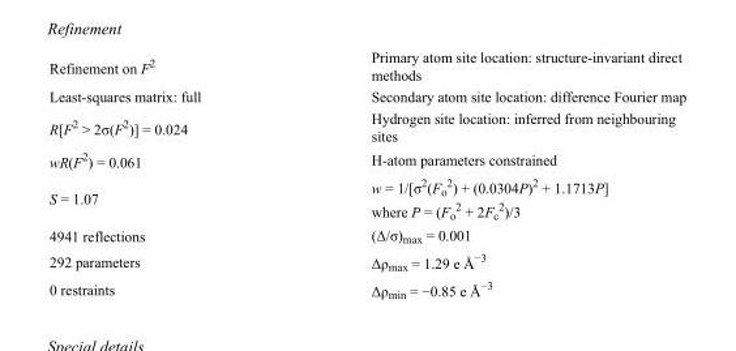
<table><tbody><tr><td>Refinement on F<sup>2</sup></td><td>Primary atom site location: structure-invariant direct methods</td></tr><tr><td>Least-squares matrix: full</td><td>Secondary atom site location: difference Fourier map</td></tr><tr><td>R[F<sup>2</sup> &gt; 2σ(F<sup>2</sup>)] = 0.024</td><td>Hydrogen site location: inferred from neighbouring sites</td></tr><tr><td>wR(F<sup>2</sup>) = 0.061</td><td>H-atom parameters constrained</td></tr><tr><td>S = 1.07</td><td>w = 1/[σ<sup>2</sup>(F<sub>o</sub> <sup>2</sup>) + (0.0304P)<sup>2</sup> + 1.1713P] where P = (F<sub>o</sub> <sup>2</sup> + 2F<sub>c</sub> <sup>2</sup>)/3</td></tr><tr><td>4941 reflections</td><td>(Δ/σ)<sub>max</sub> = 0.001</td></tr><tr><td>292 parameters</td><td>Δρ<sub>max</sub> = 1.29 e Å<sup>−3</sup></td></tr><tr><td>0 restraints</td><td>Δρ<sub>min</sub> = −0.85 e Å<sup>−3</sup></td></tr></tbody></table>